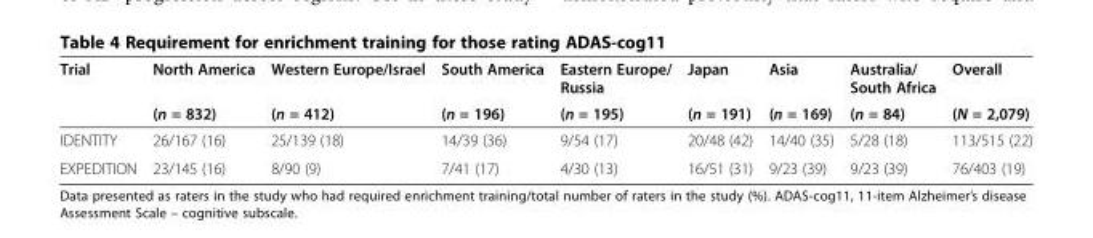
<table><thead><tr><td rowspan="2">Trial</td><td rowspan="2">North America (n = 832)</td><td rowspan="2">Western Europe/Israel (n = 412)</td><td rowspan="2">South America (n = 196)</td><td rowspan="2">Eastern Europe/ Russia (n = 195)</td><td rowspan="2">Japan (n = 191)</td><td rowspan="2">Asia (n = 169)</td><td rowspan="2">Australia/ South Africa (n = 84)</td><td rowspan="2">Overall (N = 2,079)</td></tr><tr></tr></thead><tbody><tr><td>IDENTITY</td><td>26/167 (16)</td><td>25/139 (18)</td><td>14/39 (36)</td><td>9/54 (17)</td><td>20/48 (42)</td><td>14/40 (35)</td><td>5/28 (18)</td><td>113/515 (22)</td></tr><tr><td>EXPEDITION</td><td>23/145 (16)</td><td>8/90 (9)</td><td>7/41 (17)</td><td>4/30 (13)</td><td>16/51 (31)</td><td>9/23 (39)</td><td>9/23 (39)</td><td>76/403 (19)</td></tr></tbody></table>